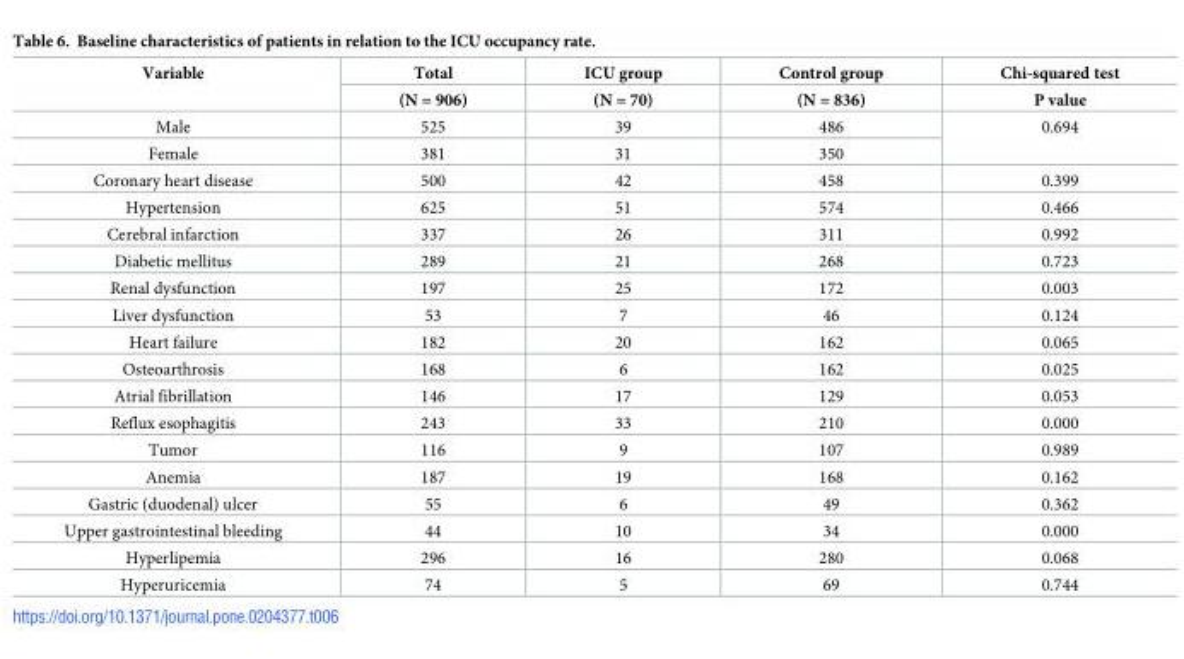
<table><thead><tr><td rowspan="2">Variable</td><td rowspan="2">Total (N = 906)</td><td rowspan="2">ICU group (N = 70)</td><td rowspan="2">Control group (N = 836)</td><td rowspan="2">Chi-squared test P value</td></tr><tr></tr></thead><tbody><tr><td>Male</td><td>525</td><td>39</td><td>486</td><td rowspan="2">0.694</td></tr><tr><td>Female</td><td>381</td><td>31</td><td>350</td></tr><tr><td>Coronary heart disease</td><td>500</td><td>42</td><td>458</td><td>0.399</td></tr><tr><td>Hypertension</td><td>625</td><td>51</td><td>574</td><td>0.466</td></tr><tr><td>Cerebral infarction</td><td>337</td><td>26</td><td>311</td><td>0.992</td></tr><tr><td>Diabetic mellitus</td><td>289</td><td>21</td><td>268</td><td>0.723</td></tr><tr><td>Renal dysfunction</td><td>197</td><td>25</td><td>172</td><td>0.003</td></tr><tr><td>Liver dysfunction</td><td>53</td><td>7</td><td>46</td><td>0.124</td></tr><tr><td>Heart failure</td><td>182</td><td>20</td><td>162</td><td>0.065</td></tr><tr><td>Osteoarthrosis</td><td>168</td><td>6</td><td>162</td><td>0.025</td></tr><tr><td>Atrial fibrillation</td><td>146</td><td>17</td><td>129</td><td>0.053</td></tr><tr><td>Reflux esophagitis</td><td>243</td><td>33</td><td>210</td><td>0.000</td></tr><tr><td>Tumor</td><td>116</td><td>9</td><td>107</td><td>0.989</td></tr><tr><td>Anemia</td><td>187</td><td>19</td><td>168</td><td>0.162</td></tr><tr><td>Gastric (duodenal) ulcer</td><td>55</td><td>6</td><td>49</td><td>0.362</td></tr><tr><td>Upper gastrointestinal bleeding</td><td>44</td><td>10</td><td>34</td><td>0.000</td></tr><tr><td>Hyperlipemia</td><td>296</td><td>16</td><td>280</td><td>0.068</td></tr><tr><td>Hyperuricemia</td><td>74</td><td>5</td><td>69</td><td>0.744</td></tr></tbody></table>